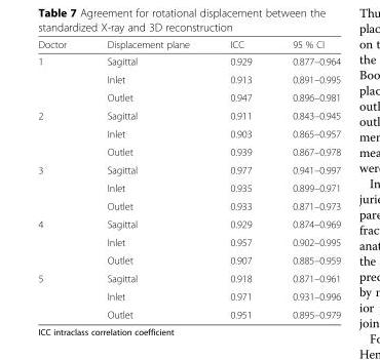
<table><thead><tr><td>Doctor</td><td>Displacement plane</td><td>ICC</td><td>95 % CI</td></tr></thead><tbody><tr><td rowspan="3">1</td><td>Sagittal</td><td>0.929</td><td>0.877–0.964</td></tr><tr><td>Inlet</td><td>0.913</td><td>0.891–0.995</td></tr><tr><td>Outlet</td><td>0.947</td><td>0.896–0.981</td></tr><tr><td rowspan="3">2</td><td>Sagittal</td><td>0.911</td><td>0.843–0.945</td></tr><tr><td>Inlet</td><td>0.903</td><td>0.865–0.957</td></tr><tr><td>Outlet</td><td>0.939</td><td>0.867–0.978</td></tr><tr><td rowspan="3">3</td><td>Sagittal</td><td>0.977</td><td>0.941–0.997</td></tr><tr><td>Inlet</td><td>0.935</td><td>0.899–0.971</td></tr><tr><td>Outlet</td><td>0.933</td><td>0.871–0.973</td></tr><tr><td rowspan="3">4</td><td>Sagittal</td><td>0.929</td><td>0.874–0.969</td></tr><tr><td>Inlet</td><td>0.957</td><td>0.902–0.995</td></tr><tr><td>Outlet</td><td>0.907</td><td>0.885–0.959</td></tr><tr><td rowspan="3">5</td><td>Sagittal</td><td>0.918</td><td>0.871–0.961</td></tr><tr><td>Inlet</td><td>0.971</td><td>0.931–0.996</td></tr><tr><td>Outlet</td><td>0.951</td><td>0.895–0.979</td></tr></tbody></table>